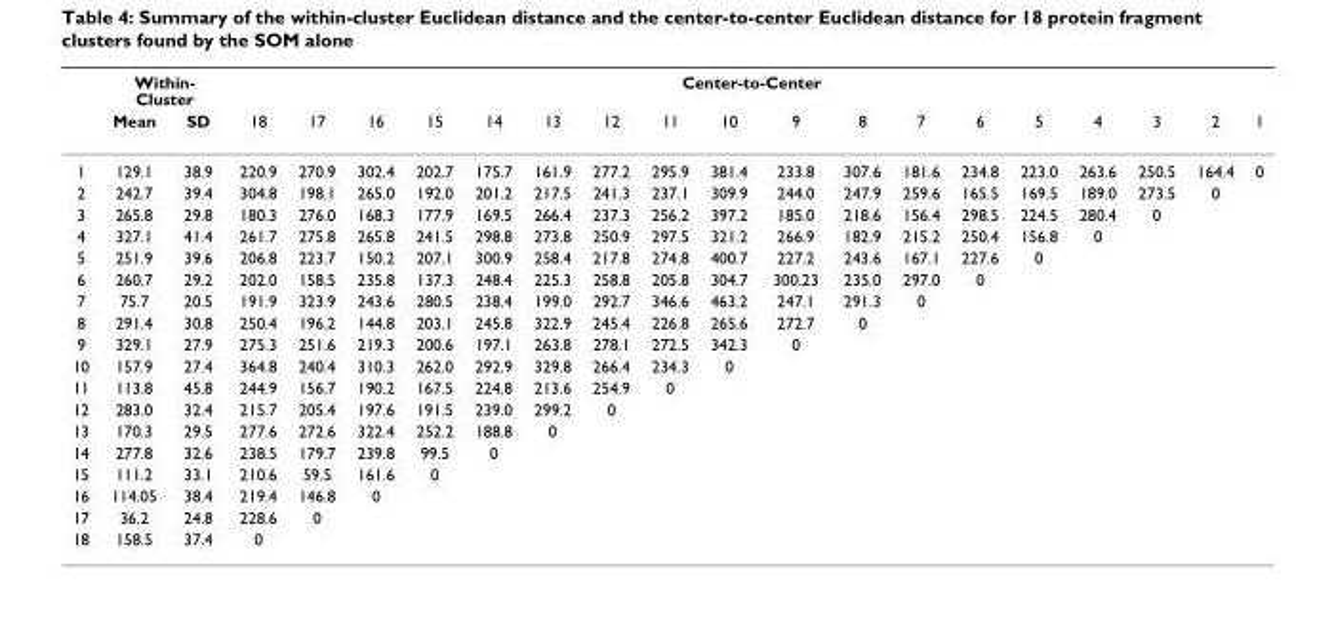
<table><thead><tr><td rowspan="2"></td><td colspan="2">Within- Cluster</td><td colspan="18">Center-to-Center</td></tr><tr><td>Mean</td><td>SD</td><td>18</td><td>17</td><td>16</td><td>15</td><td>14</td><td>13</td><td>12</td><td>11</td><td>10</td><td>9</td><td>8</td><td>7</td><td>6</td><td>5</td><td>4</td><td>3</td><td>2</td><td>1</td></tr></thead><tbody><tr><td>1</td><td>129.1</td><td>38.9</td><td>220.9</td><td>270.9</td><td>302.4</td><td>202.7</td><td>175.7</td><td>161.9</td><td>277.2</td><td>295.9</td><td>381.4</td><td>233.8</td><td>307.6</td><td>181.6</td><td>234.8</td><td>223.0</td><td>263.6</td><td>250.5</td><td>164.4</td><td>0</td></tr><tr><td>2</td><td>242.7</td><td>39.4</td><td>304.8</td><td>198.1</td><td>265.0</td><td>192.0</td><td>201.2</td><td>217.5</td><td>241.3</td><td>237.1</td><td>309.9</td><td>244.0</td><td>247.9</td><td>259.6</td><td>165.5</td><td>169.5</td><td>189.0</td><td>273.5</td><td>0</td><td></td></tr><tr><td>3</td><td>265.8</td><td>29.8</td><td>180.3</td><td>276.0</td><td>168.3</td><td>177.9</td><td>169.5</td><td>266.4</td><td>237.3</td><td>256.2</td><td>397.2</td><td>185.0</td><td>218.6</td><td>156.4</td><td>298.5</td><td>224.5</td><td>280.4</td><td>0</td><td></td><td></td></tr><tr><td>4</td><td>327.1</td><td>41.4</td><td>261.7</td><td>275.8</td><td>265.8</td><td>241.5</td><td>298.8</td><td>273.8</td><td>250.9</td><td>297.5</td><td>321.2</td><td>266.9</td><td>182.9</td><td>215.2</td><td>250.4</td><td>156.8</td><td>0</td><td></td><td></td><td></td></tr><tr><td>5</td><td>251.9</td><td>39.6</td><td>206.8</td><td>223.7</td><td>150.2</td><td>207.1</td><td>300.9</td><td>258.4</td><td>217.8</td><td>274.8</td><td>400.7</td><td>227.2</td><td>243.6</td><td>167.1</td><td>227.6</td><td>0</td><td></td><td></td><td></td><td></td></tr><tr><td>6</td><td>260.7</td><td>29.2</td><td>202.0</td><td>158.5</td><td>235.8</td><td>137.3</td><td>248.4</td><td>225.3</td><td>258.8</td><td>205.8</td><td>304.7</td><td>300.23</td><td>235.0</td><td>297.0</td><td>0</td><td></td><td></td><td></td><td></td><td></td></tr><tr><td>7</td><td>75.7</td><td>20.5</td><td>191.9</td><td>323.9</td><td>243.6</td><td>280.5</td><td>238.4</td><td>199.0</td><td>292.7</td><td>346.6</td><td>463.2</td><td>247.1</td><td>291.3</td><td>0</td><td></td><td></td><td></td><td></td><td></td><td></td></tr><tr><td>8</td><td>291.4</td><td>30.8</td><td>250.4</td><td>196.2</td><td>144.8</td><td>203.1</td><td>245.8</td><td>322.9</td><td>245.4</td><td>226.8</td><td>265.6</td><td>272.7</td><td>0</td><td></td><td></td><td></td><td></td><td></td><td></td><td></td></tr><tr><td>9</td><td>329.1</td><td>27.9</td><td>275.3</td><td>251.6</td><td>219.3</td><td>200.6</td><td>197.1</td><td>263.8</td><td>278.1</td><td>272.5</td><td>342.3</td><td>0</td><td></td><td></td><td></td><td></td><td></td><td></td><td></td><td></td></tr><tr><td>10</td><td>157.9</td><td>27.4</td><td>364.8</td><td>240.4</td><td>310.3</td><td>262.0</td><td>292.9</td><td>329.8</td><td>266.4</td><td>234.3</td><td>0</td><td></td><td></td><td></td><td></td><td></td><td></td><td></td><td></td><td></td></tr><tr><td>11</td><td>113.8</td><td>45.8</td><td>244.9</td><td>156.7</td><td>190.2</td><td>167.5</td><td>224.8</td><td>213.6</td><td>254.9</td><td>0</td><td></td><td></td><td></td><td></td><td></td><td></td><td></td><td></td><td></td><td></td></tr><tr><td>12</td><td>283.0</td><td>32.4</td><td>215.7</td><td>205.4</td><td>197.6</td><td>191.5</td><td>239.0</td><td>299.2</td><td>0</td><td></td><td></td><td></td><td></td><td></td><td></td><td></td><td></td><td></td><td></td><td></td></tr><tr><td>13</td><td>170.3</td><td>29.5</td><td>277.6</td><td>272.6</td><td>322.4</td><td>252.2</td><td>188.8</td><td>0</td><td></td><td></td><td></td><td></td><td></td><td></td><td></td><td></td><td></td><td></td><td></td><td></td></tr><tr><td>14</td><td>277.8</td><td>32.6</td><td>238.5</td><td>179.7</td><td>239.8</td><td>99.5</td><td>0</td><td></td><td></td><td></td><td></td><td></td><td></td><td></td><td></td><td></td><td></td><td></td><td></td><td></td></tr><tr><td>15</td><td>111.2</td><td>33.1</td><td>210.6</td><td>59.5</td><td>161.6</td><td>0</td><td></td><td></td><td></td><td></td><td></td><td></td><td></td><td></td><td></td><td></td><td></td><td></td><td></td><td></td></tr><tr><td>16</td><td>114.05</td><td>38.4</td><td>219.4</td><td>146.8</td><td>0</td><td></td><td></td><td></td><td></td><td></td><td></td><td></td><td></td><td></td><td></td><td></td><td></td><td></td><td></td><td></td></tr><tr><td>17</td><td>36.2</td><td>24.8</td><td>228.6</td><td>0</td><td></td><td></td><td></td><td></td><td></td><td></td><td></td><td></td><td></td><td></td><td></td><td></td><td></td><td></td><td></td><td></td></tr><tr><td>18</td><td>158.5</td><td>37.4</td><td>0</td><td></td><td></td><td></td><td></td><td></td><td></td><td></td><td></td><td></td><td></td><td></td><td></td><td></td><td></td><td></td><td></td><td></td></tr></tbody></table>